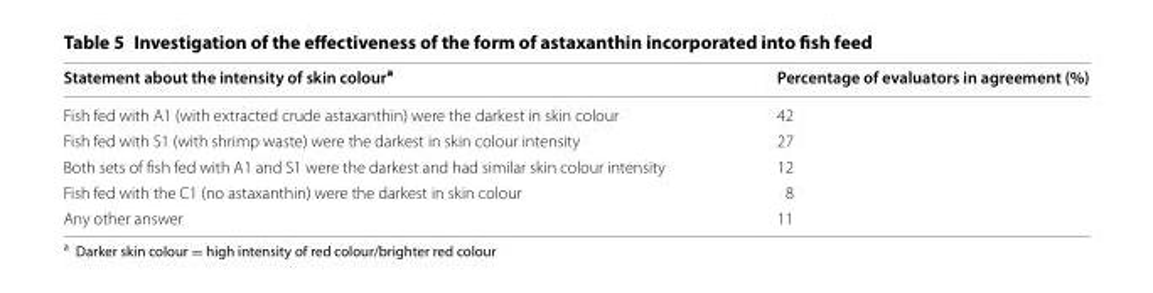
<table><thead><tr><td>Statement about the intensity of skin colour<sup>a</sup></td><td>Percentage of evaluators in agreement (%)</td></tr></thead><tbody><tr><td>Fish fed with A1 (with extracted crude astaxanthin) were the darkest in skin colour</td><td>42</td></tr><tr><td>Fish fed with S1 (with shrimp waste) were the darkest in skin colour intensity</td><td>27</td></tr><tr><td>Both sets of fish fed with A1 and S1 were the darkest and had similar skin colour intensity</td><td>12</td></tr><tr><td>Fish fed with the C1 (no astaxanthin) were the darkest in skin colour</td><td>8</td></tr><tr><td>Any other answer</td><td>11</td></tr></tbody></table>